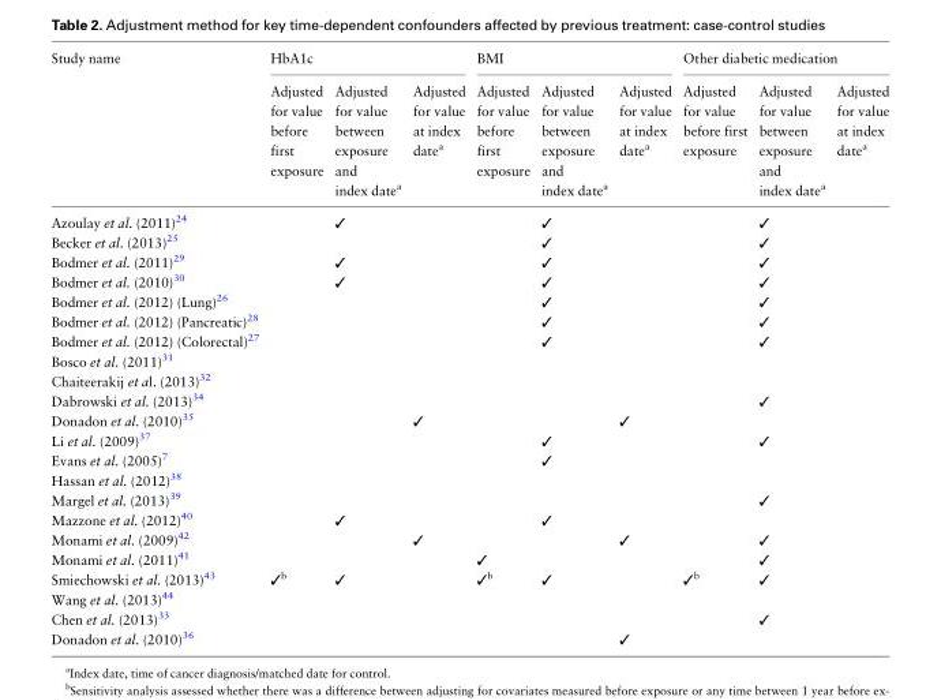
<table><thead><tr><td rowspan="2">Study name</td><td colspan="3">HbA1c</td><td colspan="3">BMI</td><td colspan="3">Other diabetic medication</td></tr><tr><td>Adjusted for value before first exposure</td><td>Adjusted for value between exposure and index date<sup>a</sup></td><td>Adjusted for value at index date<sup>a</sup></td><td>Adjusted for value before first exposure</td><td>Adjusted for value between exposure and index date<sup>a</sup></td><td>Adjusted for value at index date<sup>a</sup></td><td>Adjusted for value before first exposure</td><td>Adjusted for value between exposure and index date<sup>a</sup></td><td>Adjusted for value at index date<sup>a</sup></td></tr></thead><tbody><tr><td>Azoulay et al. (2011)<sup>24</sup></td><td></td><td></td><td></td><td></td><td></td><td></td><td></td><td></td><td></td></tr><tr><td>Becker et al. (2013)<sup>25</sup></td><td></td><td></td><td></td><td></td><td></td><td></td><td></td><td></td><td></td></tr><tr><td>Bodmer et al. (2011)<sup>29</sup></td><td></td><td></td><td></td><td></td><td></td><td></td><td></td><td></td><td></td></tr><tr><td>Bodmer et al. (2010)<sup>30</sup></td><td></td><td></td><td></td><td></td><td></td><td></td><td></td><td></td><td></td></tr><tr><td>Bodmer et al. (2012) (Lung)<sup>26</sup></td><td></td><td></td><td></td><td></td><td></td><td></td><td></td><td></td><td></td></tr><tr><td>Bodmer et al. (2012) (Pancreatic)<sup>28</sup></td><td></td><td></td><td></td><td></td><td></td><td></td><td></td><td></td><td></td></tr><tr><td>Bodmer et al. (2012) (Colorectal)<sup>27</sup></td><td></td><td></td><td></td><td></td><td></td><td></td><td></td><td></td><td></td></tr><tr><td colspan="10">Bosco et al. (2011)<sup>31</sup></td></tr><tr><td colspan="10">Chaiteerakij et al. (2013)<sup>32</sup></td></tr><tr><td>Dabrowski et al. (2013)<sup>34</sup></td><td></td><td></td><td></td><td></td><td></td><td></td><td></td><td></td><td></td></tr><tr><td>Donadon et al. (2010)<sup>35</sup></td><td></td><td></td><td></td><td></td><td></td><td></td><td></td><td></td><td></td></tr><tr><td>Li et al. (2009)<sup>37</sup></td><td></td><td></td><td></td><td></td><td></td><td></td><td></td><td></td><td></td></tr><tr><td>Evans et al. (2005)<sup>7</sup></td><td></td><td></td><td></td><td></td><td></td><td></td><td></td><td></td><td></td></tr><tr><td colspan="10">Hassan et al. (2012)<sup>38</sup></td></tr><tr><td>Margel et al. (2013)<sup>39</sup></td><td></td><td></td><td></td><td></td><td></td><td></td><td></td><td></td><td></td></tr><tr><td>Mazzone et al. (2012)<sup>40</sup></td><td></td><td></td><td></td><td></td><td></td><td></td><td></td><td></td><td></td></tr><tr><td>Monami et al. (2009)<sup>42</sup></td><td></td><td></td><td></td><td></td><td></td><td></td><td></td><td></td><td></td></tr><tr><td>Monami et al. (2011)<sup>41</sup></td><td></td><td></td><td></td><td></td><td></td><td></td><td></td><td></td><td></td></tr><tr><td>Smiechowski et al. (2013)<sup>43</sup></td><td>b</td><td></td><td></td><td>b</td><td></td><td></td><td>b</td><td></td><td></td></tr><tr><td colspan="10">Wang et al. (2013)<sup>44</sup></td></tr><tr><td>Chen et al. (2013)<sup>33</sup></td><td></td><td></td><td></td><td></td><td></td><td></td><td></td><td></td><td></td></tr><tr><td>Donadon et al. (2010)<sup>36</sup></td><td></td><td></td><td></td><td></td><td></td><td></td><td></td><td></td><td></td></tr></tbody></table>